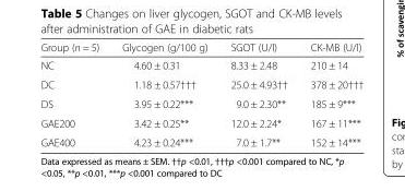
<table><thead><tr><td>Group (n = 5)</td><td>Glycogen (g/100 g)</td><td>SGOT (U/l)</td><td>CK-MB (U/l)</td></tr></thead><tbody><tr><td>NC</td><td>4.60 ± 0.31</td><td>8.33 ± 2.48</td><td>210 ± 14</td></tr><tr><td>DC</td><td>1.18 ± 0.57†††</td><td>25.0 ± 4.93††</td><td>378 ± 20†††</td></tr><tr><td>DS</td><td>3.95 ± 0.22***</td><td>9.0 ± 2.30**</td><td>185 ± 9***</td></tr><tr><td>GAE200</td><td>3.42 ± 0.25**</td><td>12.0 ± 2.24*</td><td>167 ± 11***</td></tr><tr><td>GAE400</td><td>4.23 ± 0.24***</td><td>7.0 ± 1.7**</td><td>152 ± 14***</td></tr></tbody></table>